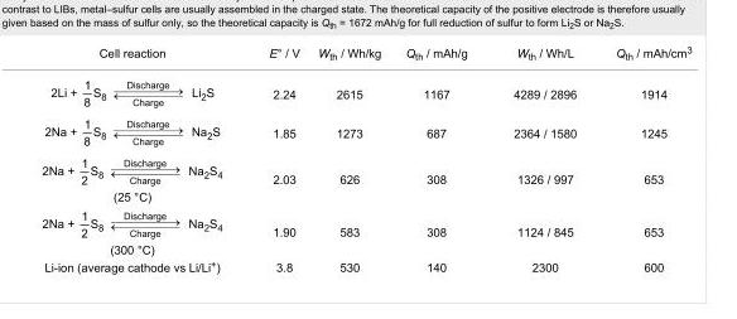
<table><tbody><tr><td rowspan="3">Cell reaction</td><td>E° / V</td><td>W<sub>th</sub> / Wh/kg</td><td>Q<sub>th</sub> / mAh/g</td><td>W<sub>th</sub> / Wh/L</td><td>Q<sub>th</sub> / mAh/cm<sup>3</sup></td></tr><tr><td>2.24</td><td>2615</td><td>1167</td><td>4289 / 2896</td><td>1914</td></tr><tr><td>1.85</td><td>1273</td><td>687</td><td>2364 / 1580</td><td>1245</td></tr><tr><td>(25 °C)</td><td>2.03</td><td>626</td><td>308</td><td>1326 / 997</td><td>653</td></tr><tr><td>(300 °C)</td><td>1.90</td><td>583</td><td>308</td><td>1124 / 845</td><td>653</td></tr><tr><td>Li-ion (average cathode vs Li/Li<sup>+</sup>)</td><td>3.8</td><td>530</td><td>140</td><td>2300</td><td>600</td></tr></tbody></table>